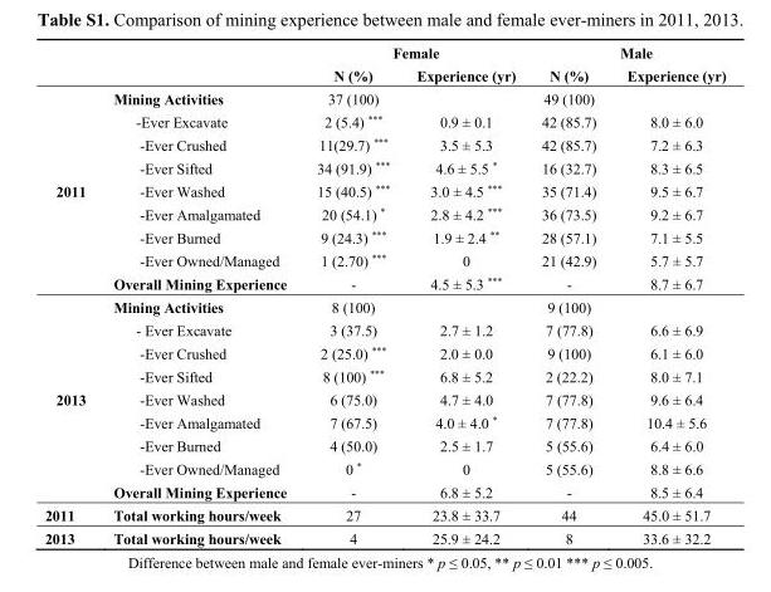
<table><thead><tr><td rowspan="2"></td><td rowspan="2"></td><td colspan="2">Female</td><td colspan="2">Male</td></tr><tr><td>N (%)</td><td>Experience (yr)</td><td>N (%)</td><td>Experience (yr)</td></tr></thead><tbody><tr><td rowspan="9">2011</td><td>Mining Activities</td><td>37 (100)</td><td></td><td>49 (100)</td><td></td></tr><tr><td>-Ever Excavate</td><td>2 (5.4) ***</td><td>0.9 ± 0.1</td><td>42 (85.7)</td><td>8.0 ± 6.0</td></tr><tr><td>-Ever Crushed</td><td>11(29.7) ***</td><td>3.5 ± 5.3</td><td>42 (85.7)</td><td>7.2 ± 6.3</td></tr><tr><td>-Ever Sifted</td><td>34 (91.9) ***</td><td>4.6 ± 5.5 *</td><td>16 (32.7)</td><td>8.3 ± 6.5</td></tr><tr><td>-Ever Washed</td><td>15 (40.5) ***</td><td>3.0 ± 4.5 ***</td><td>35 (71.4)</td><td>9.5 ± 6.7</td></tr><tr><td>-Ever Amalgamated</td><td>20 (54.1) *</td><td>2.8 ± 4.2 ***</td><td>36 (73.5)</td><td>9.2 ± 6.7</td></tr><tr><td>-Ever Burned</td><td>9 (24.3) ***</td><td>1.9 ± 2.4 **</td><td>28 (57.1)</td><td>7.1 ± 5.5</td></tr><tr><td>-Ever Owned/Managed</td><td>1 (2.70) ***</td><td>0</td><td>21 (42.9)</td><td>5.7 ± 5.7</td></tr><tr><td>Overall Mining Experience</td><td>-</td><td>4.5 ± 5.3 ***</td><td>-</td><td>8.7 ± 6.7</td></tr><tr><td rowspan="9">2013</td><td>Mining Activities</td><td>8 (100)</td><td></td><td>9 (100)</td><td></td></tr><tr><td>- Ever Excavate</td><td>3 (37.5)</td><td>2.7 ± 1.2</td><td>7 (77.8)</td><td>6.6 ± 6.9</td></tr><tr><td>-Ever Crushed</td><td>2 (25.0) ***</td><td>2.0 ± 0.0</td><td>9 (100)</td><td>6.1 ± 6.0</td></tr><tr><td>-Ever Sifted</td><td>8 (100) ***</td><td>6.8 ± 5.2</td><td>2 (22.2)</td><td>8.0 ± 7.1</td></tr><tr><td>-Ever Washed</td><td>6 (75.0)</td><td>4.7 ± 4.0</td><td>7 (77.8)</td><td>9.6 ± 6.4</td></tr><tr><td>-Ever Amalgamated</td><td>7 (67.5)</td><td>4.0 ± 4.0 *</td><td>7 (77.8)</td><td>10.4 ± 5.6</td></tr><tr><td>-Ever Burned</td><td>4 (50.0)</td><td>2.5 ± 1.7</td><td>5 (55.6)</td><td>6.4 ± 6.0</td></tr><tr><td>-Ever Owned/Managed</td><td>0 *</td><td>0</td><td>5 (55.6)</td><td>8.8 ± 6.6</td></tr><tr><td>Overall Mining Experience</td><td>-</td><td>6.8 ± 5.2</td><td>-</td><td>8.5 ± 6.4</td></tr><tr><td>2011</td><td>Total working hours/week</td><td>27</td><td>23.8 ± 33.7</td><td>44</td><td>45.0 ± 51.7</td></tr><tr><td>2013</td><td>Total working hours/week</td><td>4</td><td>25.9 ± 24.2</td><td>8</td><td>33.6 ± 32.2</td></tr></tbody></table>